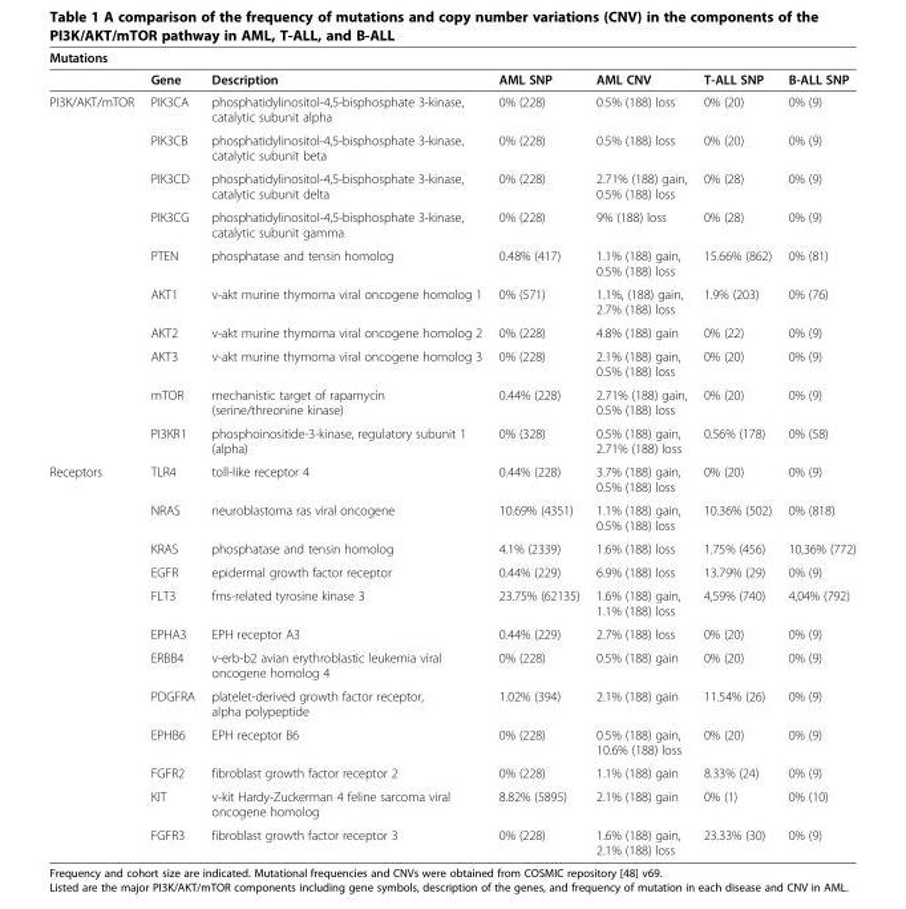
<table><thead><tr><td colspan="7">Mutations</td></tr><tr><td></td><td>Gene</td><td>Description</td><td>AML SNP</td><td>AML CNV</td><td>T-ALL SNP</td><td>B-ALL SNP</td></tr></thead><tbody><tr><td rowspan="10">PI3K/AKT/mTOR</td><td>PIK3CA</td><td>phosphatidylinositol-4,5-bisphosphate 3-kinase, catalytic subunit alpha</td><td>0% (228)</td><td>0.5% (188) loss</td><td>0% (20)</td><td>0% (9)</td></tr><tr><td>PIK3CB</td><td>phosphatidylinositol-4,5-bisphosphate 3-kinase, catalytic subunit beta</td><td>0% (228)</td><td>0.5% (188) loss</td><td>0% (20)</td><td>0% (9)</td></tr><tr><td>PIK3CD</td><td>phosphatidylinositol-4,5-bisphosphate 3-kinase, catalytic subunit delta</td><td>0% (228)</td><td>2.71% (188) gain, 0.5% (188) loss</td><td>0% (28)</td><td>0% (9)</td></tr><tr><td>PIK3CG</td><td>phosphatidylinositol-4,5-bisphosphate 3-kinase, catalytic subunit gamma</td><td>0% (228)</td><td>9% (188) loss</td><td>0% (28)</td><td>0% (9)</td></tr><tr><td>PTEN</td><td>phosphatase and tensin homolog</td><td>0.48% (417)</td><td>1.1% (188) gain, 0.5% (188) loss</td><td>15.66% (862)</td><td>0% (81)</td></tr><tr><td>AKT1</td><td>v-akt murine thymoma viral oncogene homolog 1</td><td>0% (571)</td><td>1.1%, (188) gain, 2.7% (188) loss</td><td>1.9% (203)</td><td>0% (76)</td></tr><tr><td>AKT2</td><td>v-akt murine thymoma viral oncogene homolog 2</td><td>0% (228)</td><td>4.8% (188) gain</td><td>0% (22)</td><td>0% (9)</td></tr><tr><td>AKT3</td><td>v-akt murine thymoma viral oncogene homolog 3</td><td>0% (228)</td><td>2.1% (188) gain, 0.5% (188) loss</td><td>0% (20)</td><td>0% (9)</td></tr><tr><td>mTOR</td><td>mechanistic target of rapamycin (serine/threonine kinase)</td><td>0.44% (228)</td><td>2.71% (188) gain, 0.5% (188) loss</td><td>0% (20)</td><td>0% (9)</td></tr><tr><td>PI3KR1</td><td>phosphoinositide-3-kinase, regulatory subunit 1 (alpha)</td><td>0% (328)</td><td>0.5% (188) gain, 2.71% (188) loss</td><td>0.56% (178)</td><td>0% (58)</td></tr><tr><td rowspan="12">Receptors</td><td>TLR4</td><td>toll-like receptor 4</td><td>0.44% (228)</td><td>3.7% (188) gain, 0.5% (188) loss</td><td>0% (20)</td><td>0% (9)</td></tr><tr><td>NRAS</td><td>neuroblastoma ras viral oncogene</td><td>10.69% (4351)</td><td>1.1% (188) gain, 0.5% (188) loss</td><td>10.36% (502)</td><td>0% (818)</td></tr><tr><td>KRAS</td><td>phosphatase and tensin homolog</td><td>4.1% (2339)</td><td>1.6% (188) loss</td><td>1.75% (456)</td><td>10,36% (772)</td></tr><tr><td>EGFR</td><td>epidermal growth factor receptor</td><td>0.44% (229)</td><td>6.9% (188) loss</td><td>13.79% (29)</td><td>0% (9)</td></tr><tr><td>FLT3</td><td>fms-related tyrosine kinase 3</td><td>23.75% (62135)</td><td>1.6% (188) gain, 1.1% (188) loss</td><td>4,59% (740)</td><td>4,04% (792)</td></tr><tr><td>EPHA3</td><td>EPH receptor A3</td><td>0.44% (229)</td><td>2.7% (188) loss</td><td>0% (20)</td><td>0% (9)</td></tr><tr><td>ERBB4</td><td>v-erb-b2 avian erythroblastic leukemia viral oncogene homolog 4</td><td>0% (228)</td><td>0.5% (188) gain</td><td>0% (20)</td><td>0% (9)</td></tr><tr><td>PDGFRA</td><td>platelet-derived growth factor receptor, alpha polypeptide</td><td>1.02% (394)</td><td>2.1% (188) gain</td><td>11.54% (26)</td><td>0% (9)</td></tr><tr><td>EPHB6</td><td>EPH receptor B6</td><td>0% (228)</td><td>0.5% (188) gain, 10.6% (188) loss</td><td>0% (20)</td><td>0% (9)</td></tr><tr><td>FGFR2</td><td>fibroblast growth factor receptor 2</td><td>0% (228)</td><td>1.1% (188) gain</td><td>8.33% (24)</td><td>0% (9)</td></tr><tr><td>KIT</td><td>v-kit Hardy-Zuckerman 4 feline sarcoma viral oncogene homolog</td><td>8.82% (5895)</td><td>2.1% (188) gain</td><td>0% (1)</td><td>0% (10)</td></tr><tr><td>FGFR3</td><td>fibroblast growth factor receptor 3</td><td>0% (228)</td><td>1.6% (188) gain, 2.1% (188) loss</td><td>23.33% (30)</td><td>0% (9)</td></tr></tbody></table>